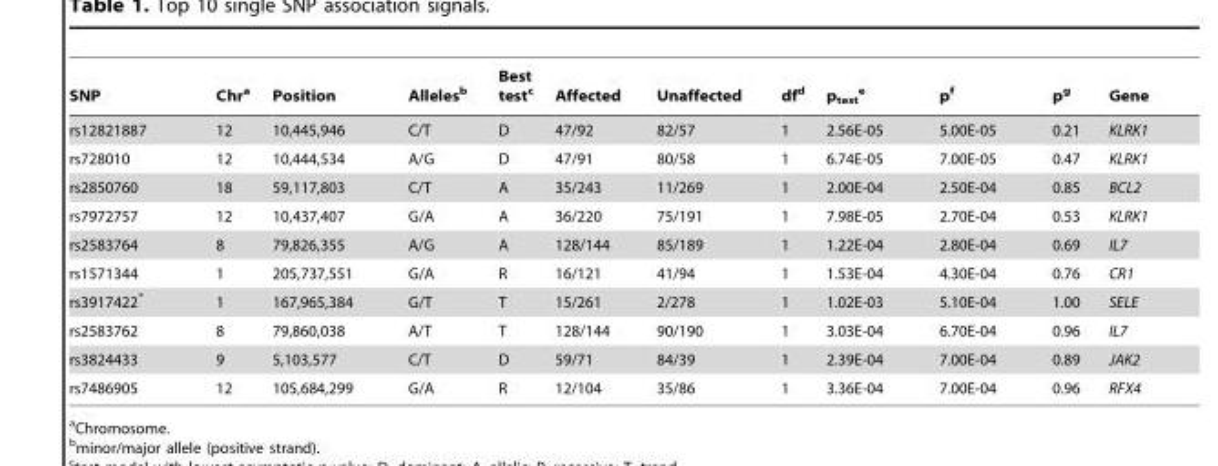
<table><thead><tr><td>SNP</td><td>Chr<sup>a</sup></td><td>Position</td><td>Alleles<sup>b</sup></td><td>Best test<sup>c</sup></td><td>Affected</td><td>Unaffected</td><td>df<sup>d</sup></td><td>p<sub>test</sub> e</td><td>p<sup>f</sup></td><td>p<sup>g</sup></td><td>Gene</td></tr></thead><tbody><tr><td>rs12821887</td><td>12</td><td>10,445,946</td><td>C/T</td><td>D</td><td>47/92</td><td>82/57</td><td>1</td><td>2.56E-05</td><td>5.00E-05</td><td>0.21</td><td>KLRK1</td></tr><tr><td>rs728010</td><td>12</td><td>10,444,534</td><td>A/G</td><td>D</td><td>47/91</td><td>80/58</td><td>1</td><td>6.74E-05</td><td>7.00E-05</td><td>0.47</td><td>KLRK1</td></tr><tr><td>rs2850760</td><td>18</td><td>59,117,803</td><td>C/T</td><td>A</td><td>35/243</td><td>11/269</td><td>1</td><td>2.00E-04</td><td>2.50E-04</td><td>0.85</td><td>BCL2</td></tr><tr><td>rs7972757</td><td>12</td><td>10,437,407</td><td>G/A</td><td>A</td><td>36/220</td><td>75/191</td><td>1</td><td>7.98E-05</td><td>2.70E-04</td><td>0.53</td><td>KLRK1</td></tr><tr><td>rs2583764</td><td>8</td><td>79,826,355</td><td>A/G</td><td>A</td><td>128/144</td><td>85/189</td><td>1</td><td>1.22E-04</td><td>2.80E-04</td><td>0.69</td><td>IL7</td></tr><tr><td>rs1571344</td><td>1</td><td>205,737,551</td><td>G/A</td><td>R</td><td>16/121</td><td>41/94</td><td>1</td><td>1.53E-04</td><td>4.30E-04</td><td>0.76</td><td>CR1</td></tr><tr><td>rs3917422*</td><td>1</td><td>167,965,384</td><td>G/T</td><td>T</td><td>15/261</td><td>2/278</td><td>1</td><td>1.02E-03</td><td>5.10E-04</td><td>1.00</td><td>SELE</td></tr><tr><td>rs2583762</td><td>8</td><td>79,860,038</td><td>A/T</td><td>T</td><td>128/144</td><td>90/190</td><td>1</td><td>3.03E-04</td><td>6.70E-04</td><td>0.96</td><td>IL7</td></tr><tr><td>rs3824433</td><td>9</td><td>5,103,577</td><td>C/T</td><td>D</td><td>59/71</td><td>84/39</td><td>1</td><td>2.39E-04</td><td>7.00E-04</td><td>0.89</td><td>JAK2</td></tr><tr><td>rs7486905</td><td>12</td><td>105,684,299</td><td>G/A</td><td>R</td><td>12/104</td><td>35/86</td><td>1</td><td>3.36E-04</td><td>7.00E-04</td><td>0.96</td><td>RFX4</td></tr></tbody></table>